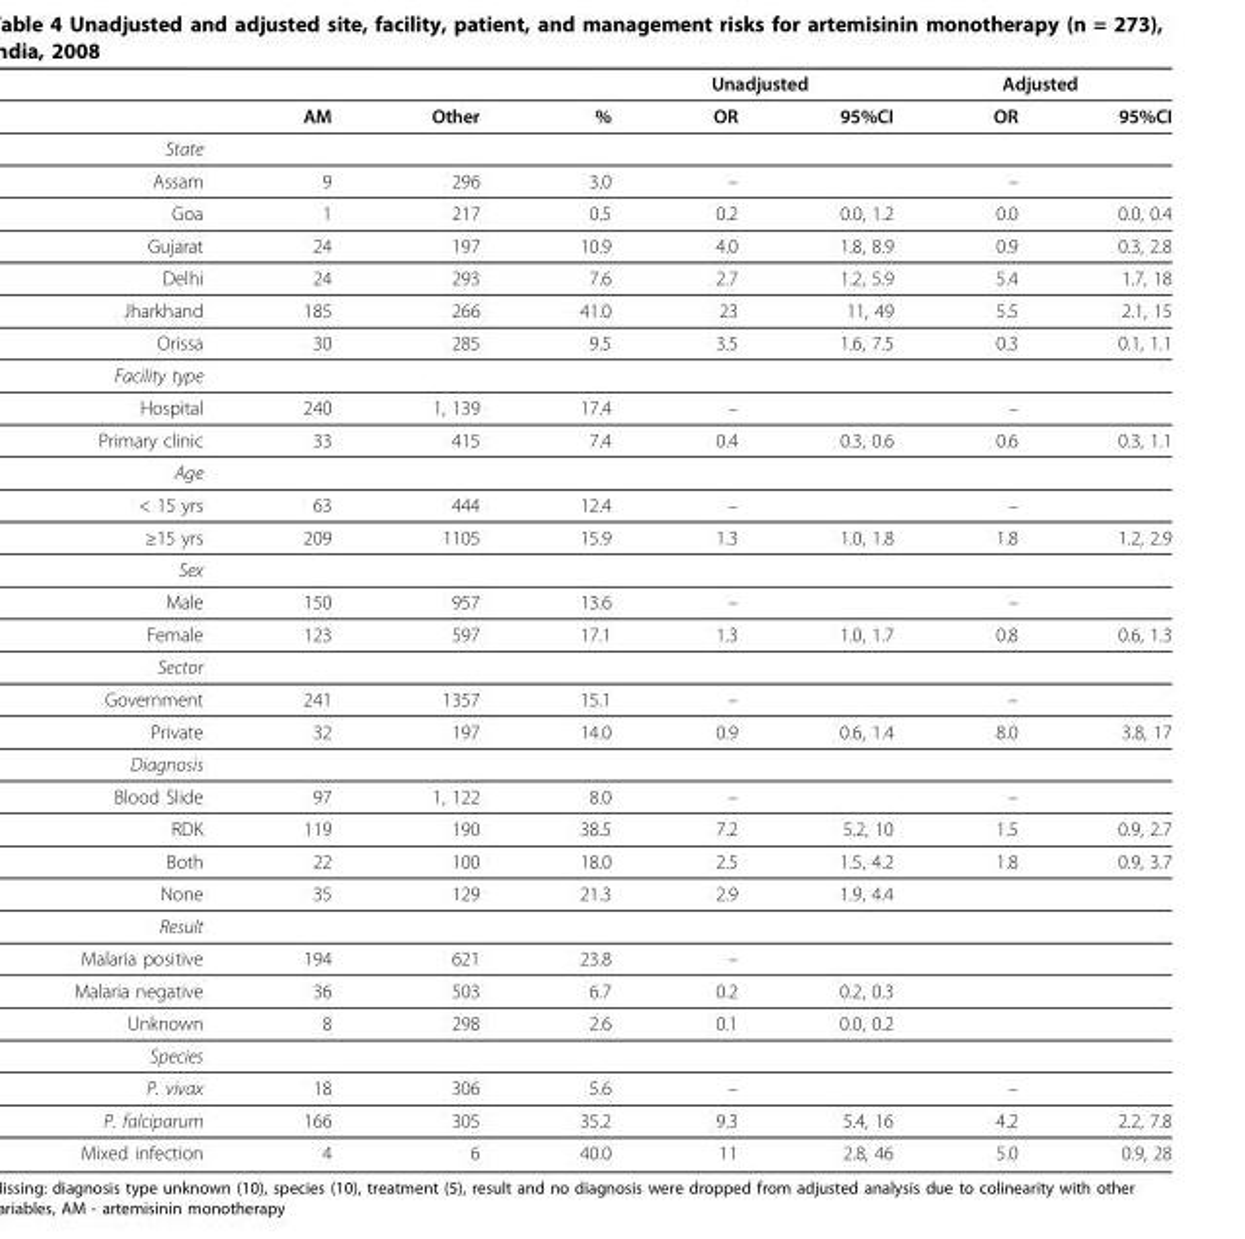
<table><thead><tr><td rowspan="2"></td><td rowspan="2">AM</td><td rowspan="2">Other</td><td rowspan="2">%</td><td colspan="2">Unadjusted</td><td colspan="2">Adjusted</td></tr><tr><td>OR</td><td>95%CI</td><td>OR</td><td>95%CI</td></tr></thead><tbody><tr><td colspan="8">State</td></tr><tr><td>Assam</td><td>9</td><td>296</td><td>3.0</td><td>–</td><td></td><td>–</td><td></td></tr><tr><td>Goa</td><td>1</td><td>217</td><td>0.5</td><td>0.2</td><td>0.0, 1.2</td><td>0.0</td><td>0.0, 0.4</td></tr><tr><td>Gujarat</td><td>24</td><td>197</td><td>10.9</td><td>4.0</td><td>1.8, 8.9</td><td>0.9</td><td>0.3, 2.8</td></tr><tr><td>Delhi</td><td>24</td><td>293</td><td>7.6</td><td>2.7</td><td>1.2, 5.9</td><td>5.4</td><td>1.7, 18</td></tr><tr><td>Jharkhand</td><td>185</td><td>266</td><td>41.0</td><td>23</td><td>11, 49</td><td>5.5</td><td>2.1, 15</td></tr><tr><td>Orissa</td><td>30</td><td>285</td><td>9.5</td><td>3.5</td><td>1.6, 7.5</td><td>0.3</td><td>0.1, 1.1</td></tr><tr><td colspan="8">Facility type</td></tr><tr><td>Hospital</td><td>240</td><td>1, 139</td><td>17.4</td><td>–</td><td></td><td>–</td><td></td></tr><tr><td>Primary clinic</td><td>33</td><td>415</td><td>7.4</td><td>0.4</td><td>0.3, 0.6</td><td>0.6</td><td>0.3, 1.1</td></tr><tr><td colspan="8">Age</td></tr><tr><td>&lt; 15 yrs</td><td>63</td><td>444</td><td>12.4</td><td>–</td><td></td><td>–</td><td></td></tr><tr><td>≥15 yrs</td><td>209</td><td>1105</td><td>15.9</td><td>1.3</td><td>1.0, 1.8</td><td>1.8</td><td>1.2, 2.9</td></tr><tr><td colspan="8">Sex</td></tr><tr><td>Male</td><td>150</td><td>957</td><td>13.6</td><td>–</td><td></td><td>–</td><td></td></tr><tr><td>Female</td><td>123</td><td>597</td><td>17.1</td><td>1.3</td><td>1.0, 1.7</td><td>0.8</td><td>0.6, 1.3</td></tr><tr><td colspan="8">Sector</td></tr><tr><td>Government</td><td>241</td><td>1357</td><td>15.1</td><td>–</td><td></td><td>–</td><td></td></tr><tr><td>Private</td><td>32</td><td>197</td><td>14.0</td><td>0.9</td><td>0.6, 1.4</td><td>8.0</td><td>3.8, 17</td></tr><tr><td colspan="8">Diagnosis</td></tr><tr><td>Blood Slide</td><td>97</td><td>1, 122</td><td>8.0</td><td>–</td><td></td><td>–</td><td></td></tr><tr><td>RDK</td><td>119</td><td>190</td><td>38.5</td><td>7.2</td><td>5.2, 10</td><td>1.5</td><td>0.9, 2.7</td></tr><tr><td>Both</td><td>22</td><td>100</td><td>18.0</td><td>2.5</td><td>1.5, 4.2</td><td>1.8</td><td>0.9, 3.7</td></tr><tr><td>None</td><td>35</td><td>129</td><td>21.3</td><td>2.9</td><td>1.9, 4.4</td><td></td><td></td></tr><tr><td colspan="8">Result</td></tr><tr><td>Malaria positive</td><td>194</td><td>621</td><td>23.8</td><td>–</td><td></td><td></td><td></td></tr><tr><td>Malaria negative</td><td>36</td><td>503</td><td>6.7</td><td>0.2</td><td>0.2, 0.3</td><td></td><td></td></tr><tr><td>Unknown</td><td>8</td><td>298</td><td>2.6</td><td>0.1</td><td>0.0, 0.2</td><td></td><td></td></tr><tr><td colspan="8">Species</td></tr><tr><td>P. vivax</td><td>18</td><td>306</td><td>5.6</td><td>–</td><td></td><td>–</td><td></td></tr><tr><td>P. falciparum</td><td>166</td><td>305</td><td>35.2</td><td>9.3</td><td>5.4, 16</td><td>4.2</td><td>2.2, 7.8</td></tr><tr><td>Mixed infection</td><td>4</td><td>6</td><td>40.0</td><td>11</td><td>2.8, 46</td><td>5.0</td><td>0.9, 28</td></tr></tbody></table>